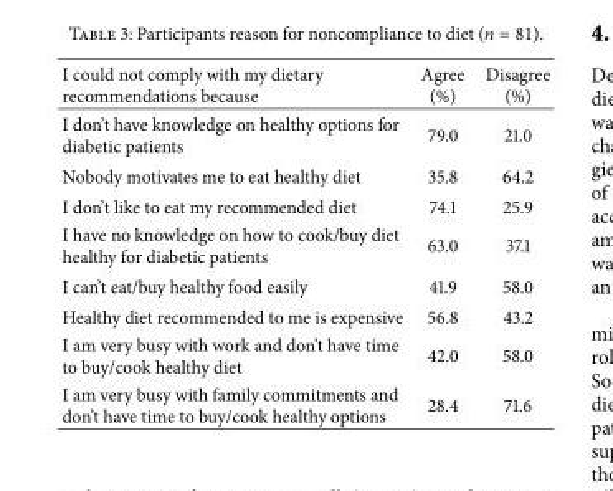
<table><thead><tr><td>I could not comply with my dietary recommendations because</td><td>Agree (%)</td><td>Disagree (%)</td></tr></thead><tbody><tr><td>I don’t have knowledge on healthy options for diabetic patients</td><td>79.0</td><td>21.0</td></tr><tr><td>Nobody motivates me to eat healthy diet</td><td>35.8</td><td>64.2</td></tr><tr><td>I don’t like to eat my recommended diet</td><td>74.1</td><td>25.9</td></tr><tr><td>I have no knowledge on how to cook/buy diet healthy for diabetic patients</td><td>63.0</td><td>37.1</td></tr><tr><td>I can’t eat/buy healthy food easily</td><td>41.9</td><td>58.0</td></tr><tr><td>Healthy diet recommended to me is expensive</td><td>56.8</td><td>43.2</td></tr><tr><td>I am very busy with work and don’t have time to buy/cook healthy diet</td><td>42.0</td><td>58.0</td></tr><tr><td>I am very busy with family commitments and don’t have time to buy/cook healthy options</td><td>28.4</td><td>71.6</td></tr></tbody></table>